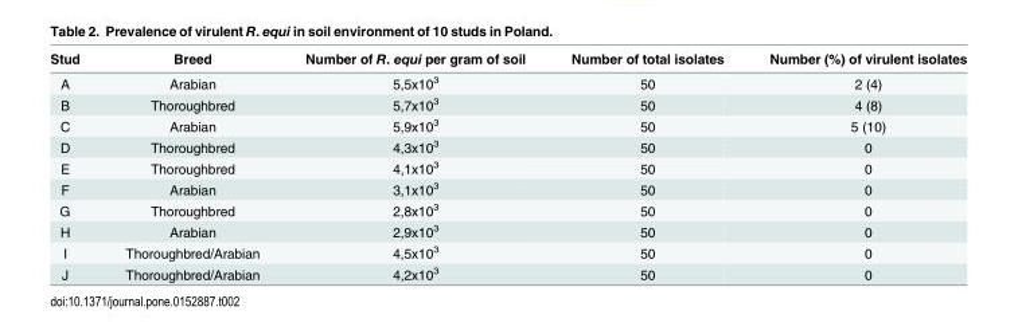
<table><thead><tr><td>Stud</td><td>Breed</td><td>Number of R. equi per gram of soil</td><td>Number of total isolates</td><td>Number (%) of virulent isolates</td></tr></thead><tbody><tr><td>A</td><td>Arabian</td><td>5,5x10<sup>3</sup></td><td>50</td><td>2 (4)</td></tr><tr><td>B</td><td>Thoroughbred</td><td>5,7x10<sup>3</sup></td><td>50</td><td>4 (8)</td></tr><tr><td>C</td><td>Arabian</td><td>5,9x10<sup>3</sup></td><td>50</td><td>5 (10)</td></tr><tr><td>D</td><td>Thoroughbred</td><td>4,3x10<sup>3</sup></td><td>50</td><td>0</td></tr><tr><td>E</td><td>Thoroughbred</td><td>4,1x10<sup>3</sup></td><td>50</td><td>0</td></tr><tr><td>F</td><td>Arabian</td><td>3,1x10<sup>3</sup></td><td>50</td><td>0</td></tr><tr><td>G</td><td>Thoroughbred</td><td>2,8x10<sup>3</sup></td><td>50</td><td>0</td></tr><tr><td>H</td><td>Arabian</td><td>2,9x10<sup>3</sup></td><td>50</td><td>0</td></tr><tr><td>I</td><td>Thoroughbred/Arabian</td><td>4,5x10<sup>3</sup></td><td>50</td><td>0</td></tr><tr><td>J</td><td>Thoroughbred/Arabian</td><td>4,2x10<sup>3</sup></td><td>50</td><td>0</td></tr></tbody></table>